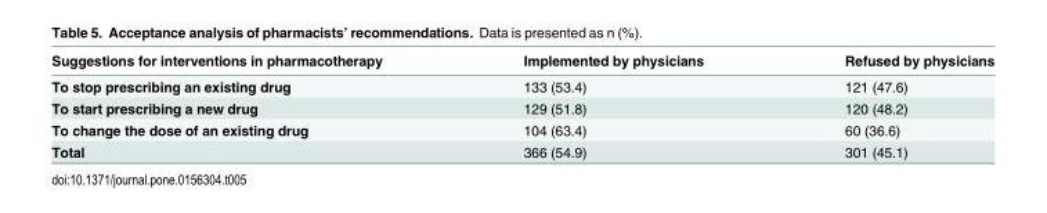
<table><thead><tr><td>Suggestions for interventions in pharmacotherapy</td><td>Implemented by physicians</td><td>Refused by physicians</td></tr></thead><tbody><tr><td>To stop prescribing an existing drug</td><td>133 (53.4)</td><td>121 (47.6)</td></tr><tr><td>To start prescribing a new drug</td><td>129 (51.8)</td><td>120 (48.2)</td></tr><tr><td>To change the dose of an existing drug</td><td>104 (63.4)</td><td>60 (36.6)</td></tr><tr><td>Total</td><td>366 (54.9)</td><td>301 (45.1)</td></tr></tbody></table>